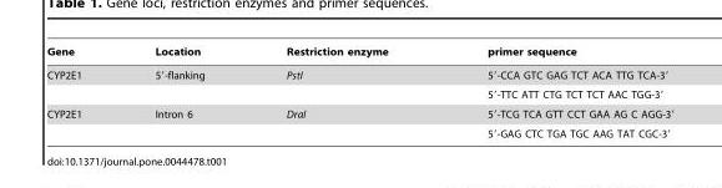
<table><thead><tr><td>Gene</td><td>Location</td><td>Restriction enzyme</td><td>primer sequence</td></tr></thead><tbody><tr><td rowspan="2">CYP2E1</td><td>5′-flanking</td><td>PstI</td><td>5′-CCA GTC GAG TCT ACA TTG TCA-3′</td></tr><tr><td></td><td></td><td>5′-TTC ATT CTG TCT TCT AAC TGG-3′</td></tr><tr><td rowspan="2">CYP2E1</td><td>Intron 6</td><td>DraI</td><td>5′-TCG TCA GTT CCT GAA AG C AGG-3′</td></tr><tr><td></td><td></td><td>5′-GAG CTC TGA TGC AAG TAT CGC-3′</td></tr></tbody></table>